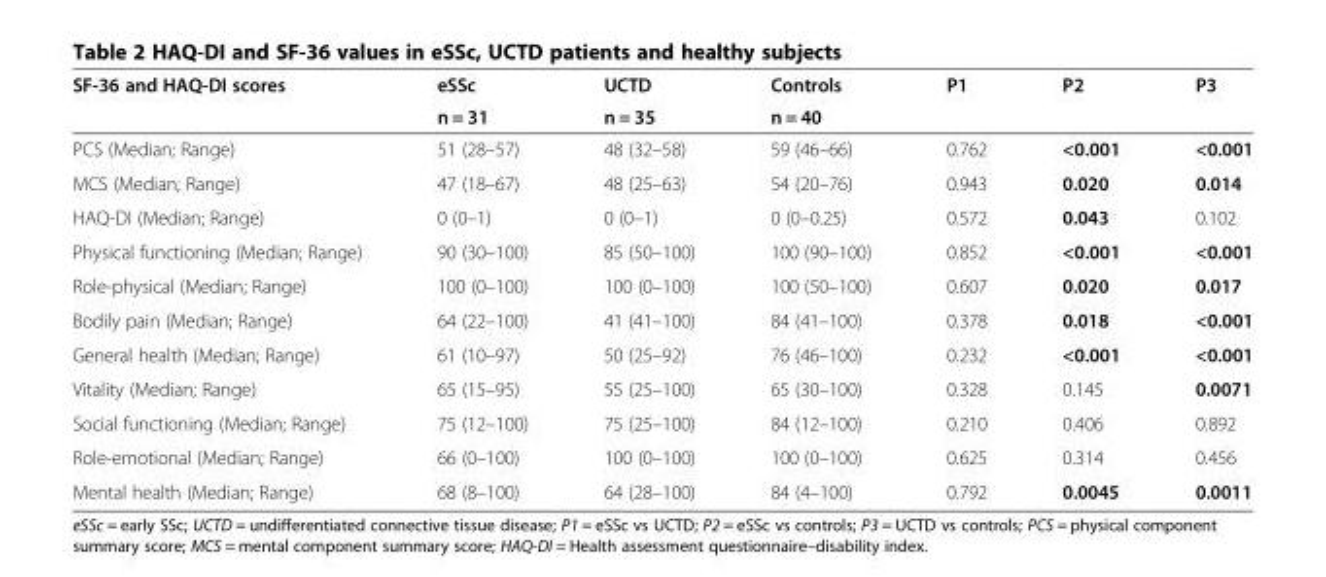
<table><thead><tr><td rowspan="2">SF-36 and HAQ-DI scores</td><td rowspan="2">eSSc n = 31</td><td rowspan="2">UCTD n = 35</td><td rowspan="2">Controls n = 40</td><td rowspan="2">P1</td><td rowspan="2">P2</td><td rowspan="2">P3</td></tr><tr></tr></thead><tbody><tr><td>PCS (Median; Range)</td><td>51 (28–57)</td><td>48 (32–58)</td><td>59 (46–66)</td><td>0.762</td><td>&lt;0.001</td><td>&lt;0.001</td></tr><tr><td>MCS (Median; Range)</td><td>47 (18–67)</td><td>48 (25–63)</td><td>54 (20–76)</td><td>0.943</td><td>0.020</td><td>0.014</td></tr><tr><td>HAQ-DI (Median; Range)</td><td>0 (0–1)</td><td>0 (0–1)</td><td>0 (0–0.25)</td><td>0.572</td><td>0.043</td><td>0.102</td></tr><tr><td>Physical functioning (Median; Range)</td><td>90 (30–100)</td><td>85 (50–100)</td><td>100 (90–100)</td><td>0.852</td><td>&lt;0.001</td><td>&lt;0.001</td></tr><tr><td>Role-physical (Median; Range)</td><td>100 (0–100)</td><td>100 (0–100)</td><td>100 (50–100)</td><td>0.607</td><td>0.020</td><td>0.017</td></tr><tr><td>Bodily pain (Median; Range)</td><td>64 (22–100)</td><td>41 (41–100)</td><td>84 (41–100)</td><td>0.378</td><td>0.018</td><td>&lt;0.001</td></tr><tr><td>General health (Median; Range)</td><td>61 (10–97)</td><td>50 (25–92)</td><td>76 (46–100)</td><td>0.232</td><td>&lt;0.001</td><td>&lt;0.001</td></tr><tr><td>Vitality (Median; Range)</td><td>65 (15–95)</td><td>55 (25–100)</td><td>65 (30–100)</td><td>0.328</td><td>0.145</td><td>0.0071</td></tr><tr><td>Social functioning (Median; Range)</td><td>75 (12–100)</td><td>75 (25–100)</td><td>84 (12–100)</td><td>0.210</td><td>0.406</td><td>0.892</td></tr><tr><td>Role-emotional (Median; Range)</td><td>66 (0–100)</td><td>100 (0–100)</td><td>100 (0–100)</td><td>0.625</td><td>0.314</td><td>0.456</td></tr><tr><td>Mental health (Median; Range)</td><td>68 (8–100)</td><td>64 (28–100)</td><td>84 (4–100)</td><td>0.792</td><td>0.0045</td><td>0.0011</td></tr></tbody></table>